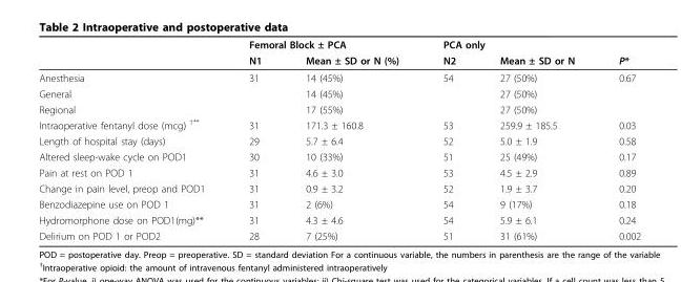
<table><thead><tr><td rowspan="2"></td><td colspan="2">Femoral Block ± PCA</td><td colspan="2">PCA only</td><td rowspan="2">P*</td></tr><tr><td>N1</td><td>Mean ± SD or N (%)</td><td>N2</td><td>Mean ± SD or N</td></tr></thead><tbody><tr><td>Anesthesia</td><td>31</td><td>14 (45%)</td><td>54</td><td>27 (50%)</td><td>0.67</td></tr><tr><td>General</td><td></td><td>14 (45%)</td><td></td><td>27 (50%)</td><td></td></tr><tr><td>Regional</td><td></td><td>17 (55%)</td><td></td><td>27 (50%)</td><td></td></tr><tr><td>Intraoperative fentanyl dose (mcg) <sup>†**</sup></td><td>31</td><td>171.3 ± 160.8</td><td>53</td><td>259.9 ± 185.5</td><td>0.03</td></tr><tr><td>Length of hospital stay (days)</td><td>29</td><td>5.7 ± 6.4</td><td>52</td><td>5.0 ± 1.9</td><td>0.58</td></tr><tr><td>Altered sleep-wake cycle on POD1</td><td>30</td><td>10 (33%)</td><td>51</td><td>25 (49%)</td><td>0.17</td></tr><tr><td>Pain at rest on POD 1</td><td>31</td><td>4.6 ± 3.0</td><td>53</td><td>4.5 ± 2.9</td><td>0.89</td></tr><tr><td>Change in pain level, preop and POD1</td><td>31</td><td>0.9 ± 3.2</td><td>52</td><td>1.9 ± 3.7</td><td>0.20</td></tr><tr><td>Benzodiazepine use on POD 1</td><td>31</td><td>2 (6%)</td><td>54</td><td>9 (17%)</td><td>0.18</td></tr><tr><td>Hydromorphone dose on POD1(mg)**</td><td>31</td><td>4.3 ± 4.6</td><td>54</td><td>5.9 ± 6.1</td><td>0.24</td></tr><tr><td>Delirium on POD 1 or POD2</td><td>28</td><td>7 (25%)</td><td>51</td><td>31 (61%)</td><td>0.002</td></tr></tbody></table>